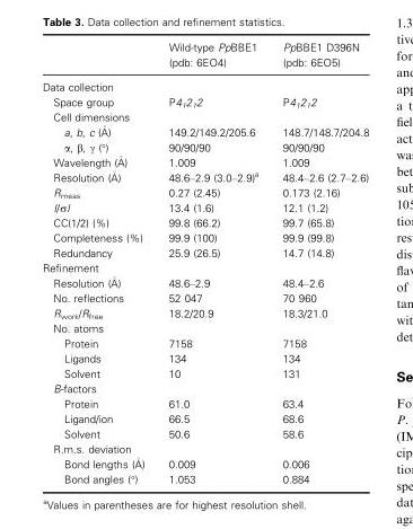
<table><thead><tr><td></td><td>Wild-type PpBBE1 (pdb: 6EO4)</td><td>PpBBE1 D396N (pdb: 6EO5)</td></tr></thead><tbody><tr><td colspan="3">Data collection</td></tr><tr><td>Space group</td><td>P4<sub>1</sub>2<sub>1</sub>2</td><td>P4<sub>1</sub>2<sub>1</sub>2</td></tr><tr><td colspan="3">Cell dimensions</td></tr><tr><td>a, b, c (�A)</td><td>149.2/149.2/205.6</td><td>148.7/148.7/204.8</td></tr><tr><td>α, β, γ (°)</td><td>90/90/90</td><td>90/90/90</td></tr><tr><td>Wavelength (�A)</td><td>1.009</td><td>1.009</td></tr><tr><td>Resolution (�A)</td><td>48.6–2.9 (3.0–2.9)<sup>a</sup></td><td>48.4–2.6 (2.7–2.6)</td></tr><tr><td>R<sub>meas</sub></td><td>0.27 (2.45)</td><td>0.173 (2.16)</td></tr><tr><td>I/σI</td><td>13.4 (1.6)</td><td>12.1 (1.2)</td></tr><tr><td>CC(1/2) (%)</td><td>99.8 (66.2)</td><td>99.7 (65.8)</td></tr><tr><td>Completeness (%)</td><td>99.9 (100)</td><td>99.9 (99.8)</td></tr><tr><td>Redundancy</td><td>25.9 (26.5)</td><td>14.7 (14.8)</td></tr><tr><td colspan="3">Refinement</td></tr><tr><td>Resolution (�A)</td><td>48.6–2.9</td><td>48.4–2.6</td></tr><tr><td>No. reflections</td><td>52 047</td><td>70 960</td></tr><tr><td>R<sub>work</sub>/R<sub>free</sub></td><td>18.2/20.9</td><td>18.3/21.0</td></tr><tr><td colspan="3">No. atoms</td></tr><tr><td>Protein</td><td>7158</td><td>7158</td></tr><tr><td>Ligands</td><td>134</td><td>134</td></tr><tr><td>Solvent</td><td>10</td><td>131</td></tr><tr><td colspan="3">B-factors</td></tr><tr><td>Protein</td><td>61.0</td><td>63.4</td></tr><tr><td>Ligand/ion</td><td>66.5</td><td>68.6</td></tr><tr><td>Solvent</td><td>50.6</td><td>58.6</td></tr><tr><td colspan="3">R.m.s. deviation</td></tr><tr><td>Bond lengths (�A)</td><td>0.009</td><td>0.006</td></tr><tr><td>Bond angles (°)</td><td>1.053</td><td>0.884</td></tr></tbody></table>